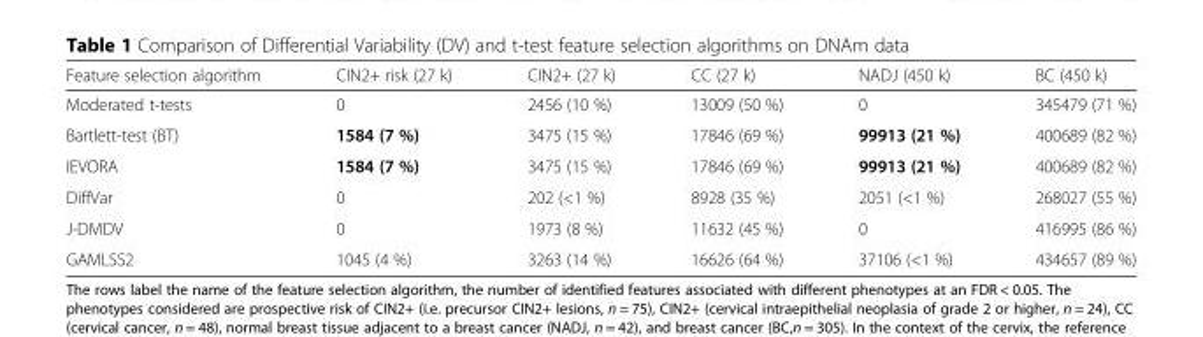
<table><thead><tr><td>Feature selection algorithm</td><td>CIN2+ risk (27 k)</td><td>CIN2+ (27 k)</td><td>CC (27 k)</td><td>NADJ (450 k)</td><td>BC (450 k)</td></tr></thead><tbody><tr><td>Moderated t-tests</td><td>0</td><td>2456 (10 %)</td><td>13009 (50 %)</td><td>0</td><td>345479 (71 %)</td></tr><tr><td>Bartlett-test (BT)</td><td>1584 (7 %)</td><td>3475 (15 %)</td><td>17846 (69 %)</td><td>99913 (21 %)</td><td>400689 (82 %)</td></tr><tr><td>IEVORA</td><td>1584 (7 %)</td><td>3475 (15 %)</td><td>17846 (69 %)</td><td>99913 (21 %)</td><td>400689 (82 %)</td></tr><tr><td>DiffVar</td><td>0</td><td>202 (&lt;1 %)</td><td>8928 (35 %)</td><td>2051 (&lt;1 %)</td><td>268027 (55 %)</td></tr><tr><td>J-DMDV</td><td>0</td><td>1973 (8 %)</td><td>11632 (45 %)</td><td>0</td><td>416995 (86 %)</td></tr><tr><td>GAMLSS2</td><td>1045 (4 %)</td><td>3263 (14 %)</td><td>16626 (64 %)</td><td>37106 (&lt;1 %)</td><td>434657 (89 %)</td></tr></tbody></table>